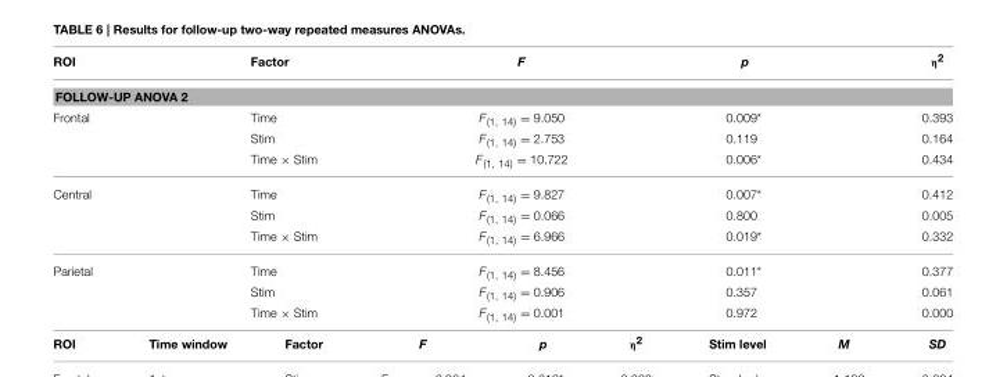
<table><thead><tr><td>ROI</td><td>Factor</td><td>F</td><td>p</td><td>η<sup>2</sup></td></tr></thead><tbody><tr><td colspan="5">FOLLOW-UP ANOVA 2</td></tr><tr><td rowspan="3">Frontal</td><td>Time</td><td>F<sub>(1, 14)</sub> = 9.050</td><td>0.009*</td><td>0.393</td></tr><tr><td>Stim</td><td>F<sub>(1, 14)</sub> = 2.753</td><td>0.119</td><td>0.164</td></tr><tr><td>Time × Stim</td><td>F<sub>(1, 14)</sub> = 10.722</td><td>0.006*</td><td>0.434</td></tr><tr><td rowspan="3">Central</td><td>Time</td><td>F<sub>(1, 14)</sub> = 9.827</td><td>0.007*</td><td>0.412</td></tr><tr><td>Stim</td><td>F<sub>(1, 14)</sub> = 0.066</td><td>0.800</td><td>0.005</td></tr><tr><td>Time × Stim</td><td>F<sub>(1, 14)</sub> = 6.966</td><td>0.019*</td><td>0.332</td></tr><tr><td rowspan="3">Parietal</td><td>Time</td><td>F<sub>(1, 14)</sub> = 8.456</td><td>0.011*</td><td>0.377</td></tr><tr><td>Stim</td><td>F<sub>(1, 14)</sub> = 0.906</td><td>0.357</td><td>0.061</td></tr><tr><td>Time × Stim</td><td>F<sub>(1, 14)</sub> = 0.001</td><td>0.972</td><td>0.000</td></tr></tbody></table>